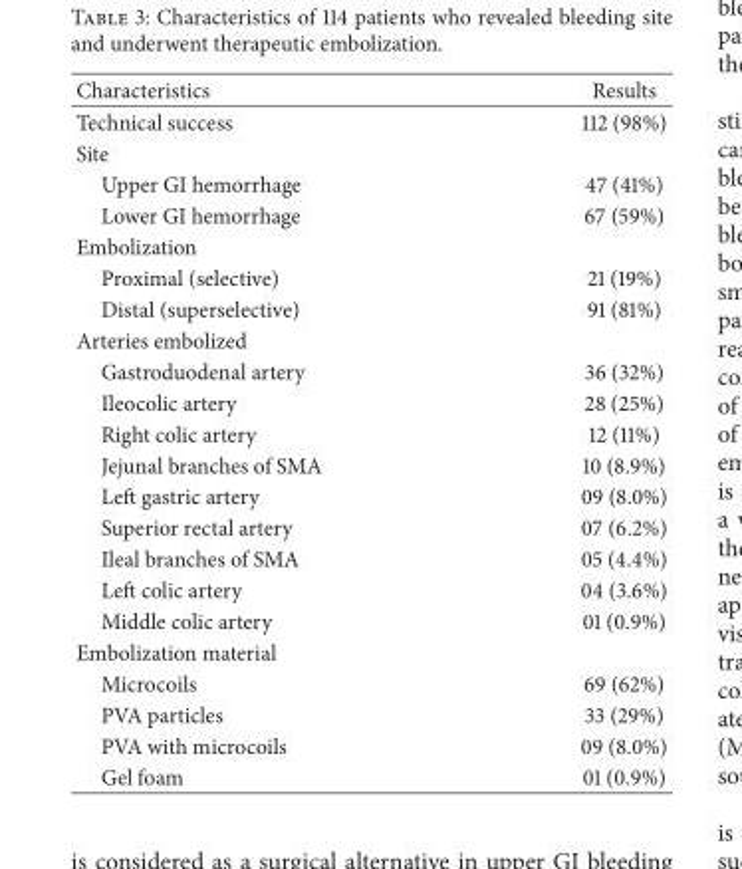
<table><thead><tr><td>Characteristics</td><td>Results</td></tr></thead><tbody><tr><td>Technical success</td><td>112 (98%)</td></tr><tr><td colspan="2">Site</td></tr><tr><td>Upper GI hemorrhage</td><td>47 (41%)</td></tr><tr><td>Lower GI hemorrhage</td><td>67 (59%)</td></tr><tr><td colspan="2">Embolization</td></tr><tr><td>Proximal (selective)</td><td>21 (19%)</td></tr><tr><td>Distal (superselective)</td><td>91 (81%)</td></tr><tr><td colspan="2">Arteries embolized</td></tr><tr><td>Gastroduodenal artery</td><td>36 (32%)</td></tr><tr><td>Ileocolic artery</td><td>28 (25%)</td></tr><tr><td>Right colic artery</td><td>12 (11%)</td></tr><tr><td>Jejunal branches of SMA</td><td>10 (8.9%)</td></tr><tr><td>Left gastric artery</td><td>09 (8.0%)</td></tr><tr><td>Superior rectal artery</td><td>07 (6.2%)</td></tr><tr><td>Ileal branches of SMA</td><td>05 (4.4%)</td></tr><tr><td>Left colic artery</td><td>04 (3.6%)</td></tr><tr><td>Middle colic artery</td><td>01 (0.9%)</td></tr><tr><td colspan="2">Embolization material</td></tr><tr><td>Microcoils</td><td>69 (62%)</td></tr><tr><td>PVA particles</td><td>33 (29%)</td></tr><tr><td>PVA with microcoils</td><td>09 (8.0%)</td></tr><tr><td>Gel foam</td><td>01 (0.9%)</td></tr></tbody></table>